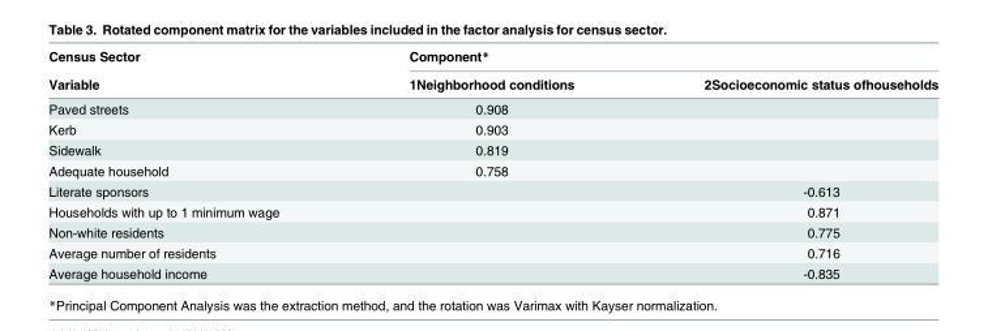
<table><thead><tr><td rowspan="2">Census Sector Variable</td><td colspan="2">Component*</td></tr><tr><td>1Neighborhood conditions</td><td>2Socioeconomic status ofhouseholds</td></tr></thead><tbody><tr><td>Paved streets</td><td>0.908</td><td></td></tr><tr><td>Kerb</td><td>0.903</td><td></td></tr><tr><td>Sidewalk</td><td>0.819</td><td></td></tr><tr><td>Adequate household</td><td>0.758</td><td></td></tr><tr><td>Literate sponsors</td><td></td><td>-0.613</td></tr><tr><td>Households with up to 1 minimum wage</td><td></td><td>0.871</td></tr><tr><td>Non-white residents</td><td></td><td>0.775</td></tr><tr><td>Average number of residents</td><td></td><td>0.716</td></tr><tr><td>Average household income</td><td></td><td>-0.835</td></tr></tbody></table>